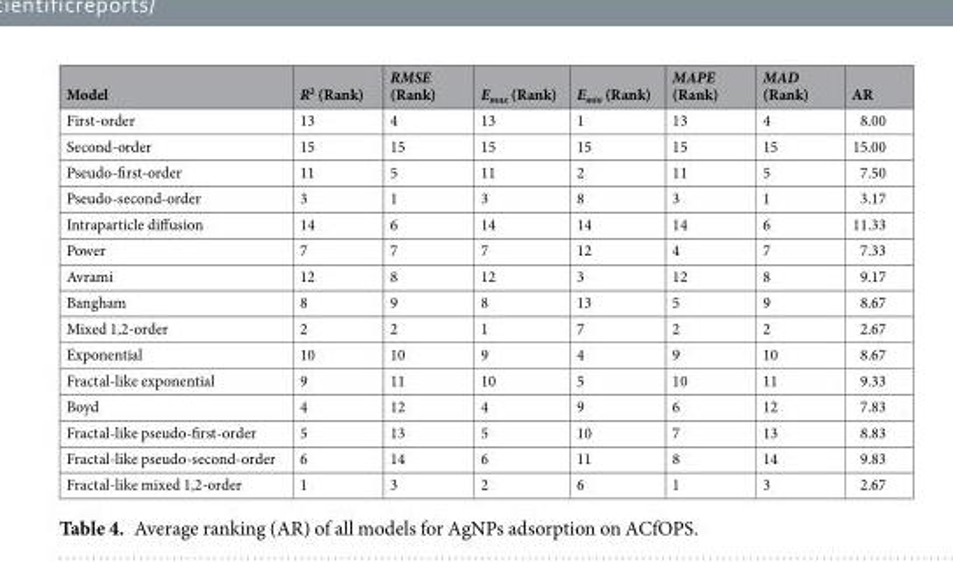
<table><thead><tr><td>Model</td><td>R<sup>2</sup> (Rank)</td><td>RMSE (Rank)</td><td>E<sub>max</sub> (Rank)</td><td>E<sub>min</sub> (Rank)</td><td>MAPE (Rank)</td><td>MAD (Rank)</td><td>AR</td></tr></thead><tbody><tr><td>First-order</td><td>13</td><td>4</td><td>13</td><td>1</td><td>13</td><td>4</td><td>8.00</td></tr><tr><td>Second-order</td><td>15</td><td>15</td><td>15</td><td>15</td><td>15</td><td>15</td><td>15.00</td></tr><tr><td>Pseudo-first-order</td><td>11</td><td>5</td><td>11</td><td>2</td><td>11</td><td>5</td><td>7.50</td></tr><tr><td>Pseudo-second-order</td><td>3</td><td>1</td><td>3</td><td>8</td><td>3</td><td>1</td><td>3.17</td></tr><tr><td>Intraparticle diffusion</td><td>14</td><td>6</td><td>14</td><td>14</td><td>14</td><td>6</td><td>11.33</td></tr><tr><td>Power</td><td>7</td><td>7</td><td>7</td><td>12</td><td>4</td><td>7</td><td>7.33</td></tr><tr><td>Avrami</td><td>12</td><td>8</td><td>12</td><td>3</td><td>12</td><td>8</td><td>9.17</td></tr><tr><td>Bangham</td><td>8</td><td>9</td><td>8</td><td>13</td><td>5</td><td>9</td><td>8.67</td></tr><tr><td>Mixed 1,2-order</td><td>2</td><td>2</td><td>1</td><td>7</td><td>2</td><td>2</td><td>2.67</td></tr><tr><td>Exponential</td><td>10</td><td>10</td><td>9</td><td>4</td><td>9</td><td>10</td><td>8.67</td></tr><tr><td>Fractal-like exponential</td><td>9</td><td>11</td><td>10</td><td>5</td><td>10</td><td>11</td><td>9.33</td></tr><tr><td>Boyd</td><td>4</td><td>12</td><td>4</td><td>9</td><td>6</td><td>12</td><td>7.83</td></tr><tr><td>Fractal-like pseudo-first-order</td><td>5</td><td>13</td><td>5</td><td>10</td><td>7</td><td>13</td><td>8.83</td></tr><tr><td>Fractal-like pseudo-second-order</td><td>6</td><td>14</td><td>6</td><td>11</td><td>8</td><td>14</td><td>9.83</td></tr><tr><td>Fractal-like mixed 1,2-order</td><td>1</td><td>3</td><td>2</td><td>6</td><td>1</td><td>3</td><td>2.67</td></tr></tbody></table>